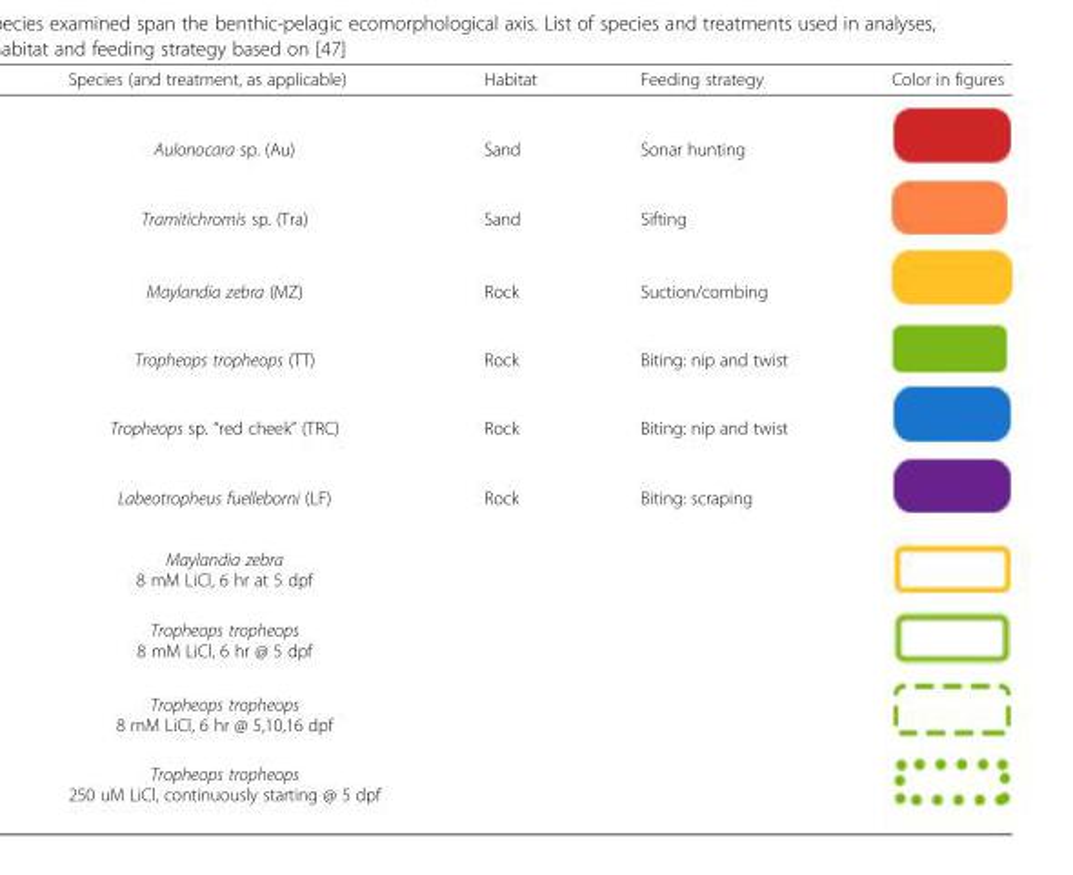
<table><thead><tr><td>Species (and treatment, as applicable)</td><td>Habitat</td><td>Feeding strategy</td><td>Color in figures</td></tr></thead><tbody><tr><td>Aulonocara sp. (Au)</td><td>Sand</td><td>Sonar hunting</td><td></td></tr><tr><td>Tramitichromis sp. (Tra)</td><td>Sand</td><td>Sifting</td><td></td></tr><tr><td>Maylandia zebra (MZ)</td><td>Rock</td><td>Suction/combing</td><td></td></tr><tr><td>Tropheops tropheops (TT)</td><td>Rock</td><td>Biting: nip and twist</td><td></td></tr><tr><td>Tropheops sp. “red cheek” (TRC)</td><td>Rock</td><td>Biting: nip and twist</td><td></td></tr><tr><td>Labeotropheus fuelleborni (LF)</td><td>Rock</td><td>Biting: scraping</td><td></td></tr><tr><td colspan="4">Maylandia zebra 8 mM LiCl, 6 hr at 5 dpf</td></tr><tr><td colspan="4">Tropheops tropheops 8 mM LiCl, 6 hr @ 5 dpf</td></tr><tr><td colspan="4">Tropheops tropheops 8 mM LiCl, 6 hr @ 5,10,16 dpf</td></tr><tr><td>Tropheops tropheops 250 uM LiCl, continuously starting @ 5 dpf</td><td></td><td></td><td></td></tr></tbody></table>